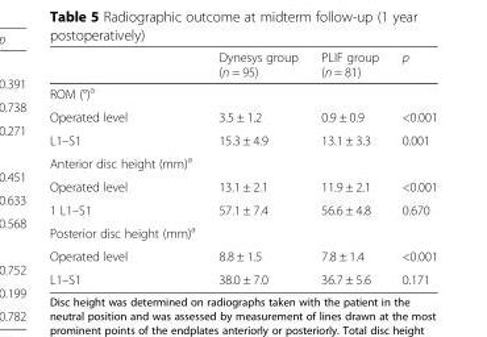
<table><thead><tr><td></td><td>Dynesys group (n = 95)</td><td>PLIF group (n = 81)</td><td>p</td></tr></thead><tbody><tr><td colspan="4">ROM (°)<sup>a</sup></td></tr><tr><td>Operated level</td><td>3.5 ± 1.2</td><td>0.9 ± 0.9</td><td>&lt;0.001</td></tr><tr><td>L1–S1</td><td>15.3 ± 4.9</td><td>13.1 ± 3.3</td><td>0.001</td></tr><tr><td colspan="4">Anterior disc height (mm)<sup>a</sup></td></tr><tr><td>Operated level</td><td>13.1 ± 2.1</td><td>11.9 ± 2.1</td><td>&lt;0.001</td></tr><tr><td>1 L1–S1</td><td>57.1 ± 7.4</td><td>56.6 ± 4.8</td><td>0.670</td></tr><tr><td colspan="4">Posterior disc height (mm)<sup>a</sup></td></tr><tr><td>Operated level</td><td>8.8 ± 1.5</td><td>7.8 ± 1.4</td><td>&lt;0.001</td></tr><tr><td>L1–S1</td><td>38.0 ± 7.0</td><td>36.7 ± 5.6</td><td>0.171</td></tr></tbody></table>